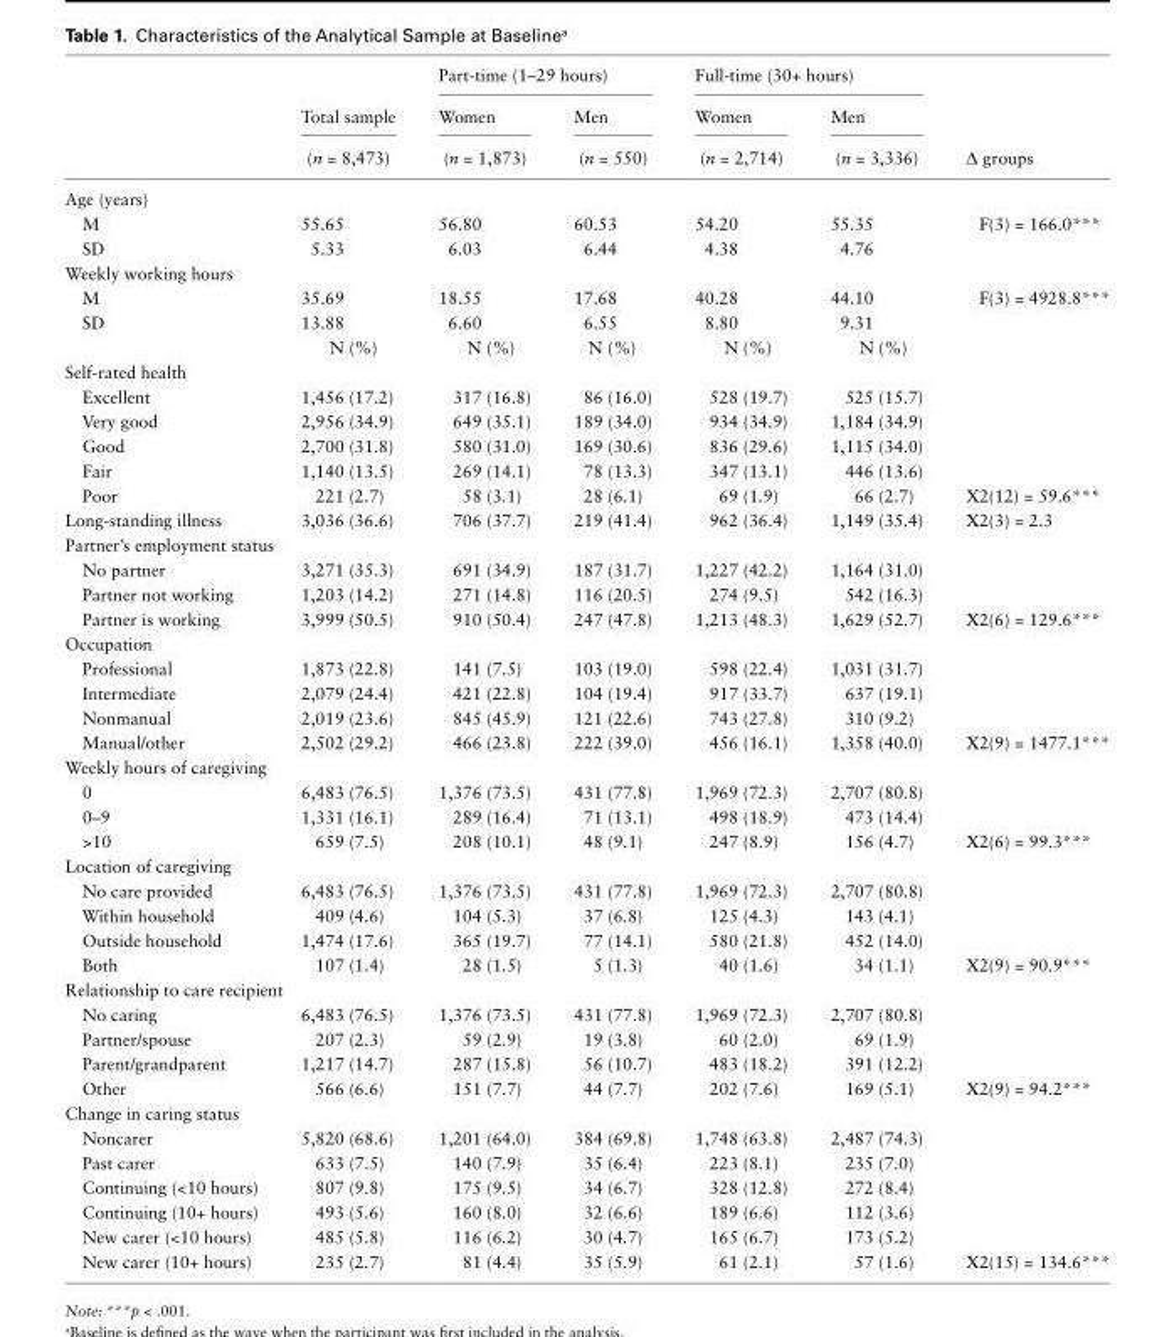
<table><thead><tr><td rowspan="3"></td><td rowspan="3">Total sample (n = 8,473)</td><td colspan="2">Part-time (1–29 hours)</td><td colspan="2">Full-time (30+ hours)</td><td rowspan="3">Δ groups</td></tr><tr><td rowspan="2">Women (n = 1,873)</td><td rowspan="2">Men (n = 550)</td><td rowspan="2">Women (n = 2,714)</td><td rowspan="2">Men (n = 3,336)</td></tr><tr></tr></thead><tbody><tr><td colspan="7">Age (years)</td></tr><tr><td>M</td><td>55.65</td><td>56.80</td><td>60.53</td><td>54.20</td><td>55.35</td><td rowspan="2">F(3) = 166.0***</td></tr><tr><td>SD</td><td>5.33</td><td>6.03</td><td>6.44</td><td>4.38</td><td>4.76</td></tr><tr><td colspan="7">Weekly working hours</td></tr><tr><td>M</td><td>35.69</td><td>18.55</td><td>17.68</td><td>40.28</td><td>44.10</td><td rowspan="2">F(3) = 4928.8***</td></tr><tr><td rowspan="2">SD</td><td>13.88</td><td>6.60</td><td>6.55</td><td>8.80</td><td>9.31</td></tr><tr><td>N (%)</td><td>N (%)</td><td>N (%)</td><td>N (%)</td><td>N (%)</td><td></td></tr><tr><td colspan="7">Self-rated health</td></tr><tr><td>Excellent</td><td>1,456 (17.2)</td><td>317 (16.8)</td><td>86 (16.0)</td><td>528 (19.7)</td><td>525 (15.7)</td><td></td></tr><tr><td>Very good</td><td>2,956 (34.9)</td><td>649 (35.1)</td><td>189 (34.0)</td><td>934 (34.9)</td><td>1,184 (34.9)</td><td></td></tr><tr><td>Good</td><td>2,700 (31.8)</td><td>580 (31.0)</td><td>169 (30.6)</td><td>836 (29.6)</td><td>1,115 (34.0)</td><td></td></tr><tr><td>Fair</td><td>1,140 (13.5)</td><td>269 (14.1)</td><td>78 (13.3)</td><td>347 (13.1)</td><td>446 (13.6)</td><td></td></tr><tr><td>Poor</td><td>221 (2.7)</td><td>58 (3.1)</td><td>28 (6.1)</td><td>69 (1.9)</td><td>66 (2.7)</td><td>Χ2(12) = 59.6***</td></tr><tr><td>Long-standing illness</td><td>3,036 (36.6)</td><td>706 (37.7)</td><td>219 (41.4)</td><td>962 (36.4)</td><td>1,149 (35.4)</td><td>Χ2(3) = 2.3</td></tr><tr><td colspan="7">Partner’s employment status</td></tr><tr><td>No partner</td><td>3,271 (35.3)</td><td>691 (34.9)</td><td>187 (31.7)</td><td>1,227 (42.2)</td><td>1,164 (31.0)</td><td></td></tr><tr><td>Partner not working</td><td>1,203 (14.2)</td><td>271 (14.8)</td><td>116 (20.5)</td><td>274 (9.5)</td><td>542 (16.3)</td><td></td></tr><tr><td>Partner is working</td><td>3,999 (50.5)</td><td>910 (50.4)</td><td>247 (47.8)</td><td>1,213 (48.3)</td><td>1,629 (52.7)</td><td>Χ2(6) = 129.6***</td></tr><tr><td colspan="7">Occupation</td></tr><tr><td>Professional</td><td>1,873 (22.8)</td><td>141 (7.5)</td><td>103 (19.0)</td><td>598 (22.4)</td><td>1,031 (31.7)</td><td></td></tr><tr><td>Intermediate</td><td>2,079 (24.4)</td><td>421 (22.8)</td><td>104 (19.4)</td><td>917 (33.7)</td><td>637 (19.1)</td><td></td></tr><tr><td>Nonmanual</td><td>2,019 (23.6)</td><td>845 (45.9)</td><td>121 (22.6)</td><td>743 (27.8)</td><td>310 (9.2)</td><td></td></tr><tr><td>Manual/other</td><td>2,502 (29.2)</td><td>466 (23.8)</td><td>222 (39.0)</td><td>456 (16.1)</td><td>1,358 (40.0)</td><td>Χ2(9) = 1477.1***</td></tr><tr><td colspan="7">Weekly hours of caregiving</td></tr><tr><td>0</td><td>6,483 (76.5)</td><td>1,376 (73.5)</td><td>431 (77.8)</td><td>1,969 (72.3)</td><td>2,707 (80.8)</td><td></td></tr><tr><td>0–9</td><td>1,331 (16.1)</td><td>289 (16.4)</td><td>71 (13.1)</td><td>498 (18.9)</td><td>473 (14.4)</td><td></td></tr><tr><td>&gt;10</td><td>659 (7.5)</td><td>208 (10.1)</td><td>48 (9.1)</td><td>247 (8.9)</td><td>156 (4.7)</td><td>Χ2(6) = 99.3***</td></tr><tr><td colspan="7">Location of caregiving</td></tr><tr><td>No care provided</td><td>6,483 (76.5)</td><td>1,376 (73.5)</td><td>431 (77.8)</td><td>1,969 (72.3)</td><td>2,707 (80.8)</td><td></td></tr><tr><td>Within household</td><td>409 (4.6)</td><td>104 (5.3)</td><td>37 (6.8)</td><td>125 (4.3)</td><td>143 (4.1)</td><td></td></tr><tr><td>Outside household</td><td>1,474 (17.6)</td><td>365 (19.7)</td><td>77 (14.1)</td><td>580 (21.8)</td><td>452 (14.0)</td><td></td></tr><tr><td>Both</td><td>107 (1.4)</td><td>28 (1.5)</td><td>5 (1.3)</td><td>40 (1.6)</td><td>34 (1.1)</td><td>Χ2(9) = 90.9***</td></tr><tr><td colspan="7">Relationship to care recipient</td></tr><tr><td>No caring</td><td>6,483 (76.5)</td><td>1,376 (73.5)</td><td>431 (77.8)</td><td>1,969 (72.3)</td><td>2,707 (80.8)</td><td></td></tr><tr><td>Partner/spouse</td><td>207 (2.3)</td><td>59 (2.9)</td><td>19 (3.8)</td><td>60 (2.0)</td><td>69 (1.9)</td><td></td></tr><tr><td>Parent/grandparent</td><td>1,217 (14.7)</td><td>287 (15.8)</td><td>56 (10.7)</td><td>483 (18.2)</td><td>391 (12.2)</td><td></td></tr><tr><td>Other</td><td>566 (6.6)</td><td>151 (7.7)</td><td>44 (7.7)</td><td>202 (7.6)</td><td>169 (5.1)</td><td>Χ2(9) = 94.2***</td></tr><tr><td colspan="7">Change in caring status</td></tr><tr><td>Noncarer</td><td>5,820 (68.6)</td><td>1,201 (64.0)</td><td>384 (69.8)</td><td>1,748 (63.8)</td><td>2,487 (74.3)</td><td></td></tr><tr><td>Past carer</td><td>633 (7.5)</td><td>140 (7.9)</td><td>35 (6.4)</td><td>223 (8.1)</td><td>235 (7.0)</td><td></td></tr><tr><td>Continuing (&lt;10 hours)</td><td>807 (9.8)</td><td>175 (9.5)</td><td>34 (6.7)</td><td>328 (12.8)</td><td>272 (8.4)</td><td></td></tr><tr><td>Continuing (10+ hours)</td><td>493 (5.6)</td><td>160 (8.0)</td><td>32 (6.6)</td><td>189 (6.6)</td><td>112 (3.6)</td><td></td></tr><tr><td>New carer (&lt;10 hours)</td><td>485 (5.8)</td><td>116 (6.2)</td><td>30 (4.7)</td><td>165 (6.7)</td><td>173 (5.2)</td><td></td></tr><tr><td>New carer (10+ hours)</td><td>235 (2.7)</td><td>81 (4.4)</td><td>35 (5.9)</td><td>61 (2.1)</td><td>57 (1.6)</td><td>Χ2(15) = 134.6***</td></tr></tbody></table>